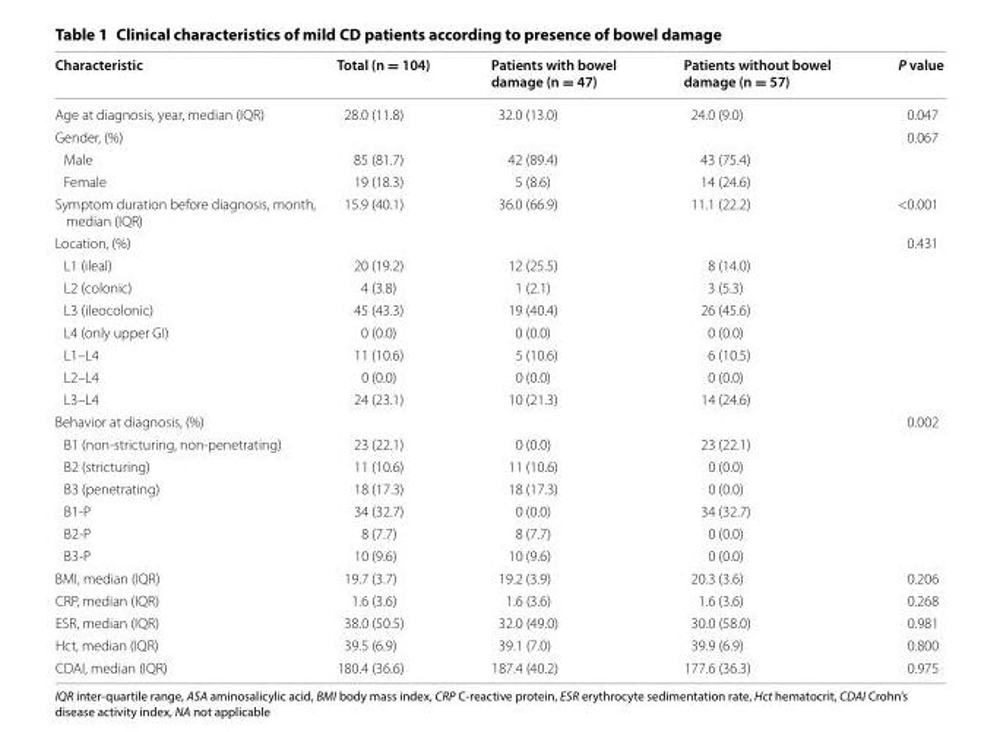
<table><thead><tr><td>Characteristic</td><td>Total (n = 104)</td><td>Patients with bowel damage (n = 47)</td><td>Patients without bowel damage (n = 57)</td><td>P value</td></tr></thead><tbody><tr><td>Age at diagnosis, year, median (IQR)</td><td>28.0 (11.8)</td><td>32.0 (13.0)</td><td>24.0 (9.0)</td><td>0.047</td></tr><tr><td>Gender, (%)</td><td></td><td></td><td></td><td>0.067</td></tr><tr><td>Male</td><td>85 (81.7)</td><td>42 (89.4)</td><td>43 (75.4)</td><td></td></tr><tr><td>Female</td><td>19 (18.3)</td><td>5 (8.6)</td><td>14 (24.6)</td><td></td></tr><tr><td>Symptom duration before diagnosis, month, median (IQR)</td><td>15.9 (40.1)</td><td>36.0 (66.9)</td><td>11.1 (22.2)</td><td>&lt;0.001</td></tr><tr><td>Location, (%)</td><td></td><td></td><td></td><td>0.431</td></tr><tr><td>L1 (ileal)</td><td>20 (19.2)</td><td>12 (25.5)</td><td>8 (14.0)</td><td></td></tr><tr><td>L2 (colonic)</td><td>4 (3.8)</td><td>1 (2.1)</td><td>3 (5.3)</td><td></td></tr><tr><td>L3 (ileocolonic)</td><td>45 (43.3)</td><td>19 (40.4)</td><td>26 (45.6)</td><td></td></tr><tr><td>L4 (only upper GI)</td><td>0 (0.0)</td><td>0 (0.0)</td><td>0 (0.0)</td><td></td></tr><tr><td>L1–L4</td><td>11 (10.6)</td><td>5 (10.6)</td><td>6 (10.5)</td><td></td></tr><tr><td>L2–L4</td><td>0 (0.0)</td><td>0 (0.0)</td><td>0 (0.0)</td><td></td></tr><tr><td>L3–L4</td><td>24 (23.1)</td><td>10 (21.3)</td><td>14 (24.6)</td><td></td></tr><tr><td>Behavior at diagnosis, (%)</td><td></td><td></td><td></td><td>0.002</td></tr><tr><td>B1 (non‑stricturing, non‑penetrating)</td><td>23 (22.1)</td><td>0 (0.0)</td><td>23 (22.1)</td><td></td></tr><tr><td>B2 (stricturing)</td><td>11 (10.6)</td><td>11 (10.6)</td><td>0 (0.0)</td><td></td></tr><tr><td>B3 (penetrating)</td><td>18 (17.3)</td><td>18 (17.3)</td><td>0 (0.0)</td><td></td></tr><tr><td>B1‑P</td><td>34 (32.7)</td><td>0 (0.0)</td><td>34 (32.7)</td><td></td></tr><tr><td>B2‑P</td><td>8 (7.7)</td><td>8 (7.7)</td><td>0 (0.0)</td><td></td></tr><tr><td>B3‑P</td><td>10 (9.6)</td><td>10 (9.6)</td><td>0 (0.0)</td><td></td></tr><tr><td>BMI, median (IQR)</td><td>19.7 (3.7)</td><td>19.2 (3.9)</td><td>20.3 (3.6)</td><td>0.206</td></tr><tr><td>CRP, median (IQR)</td><td>1.6 (3.6)</td><td>1.6 (3.6)</td><td>1.6 (3.6)</td><td>0.268</td></tr><tr><td>ESR, median (IQR)</td><td>38.0 (50.5)</td><td>32.0 (49.0)</td><td>30.0 (58.0)</td><td>0.981</td></tr><tr><td>Hct, median (IQR)</td><td>39.5 (6.9)</td><td>39.1 (7.0)</td><td>39.9 (6.9)</td><td>0.800</td></tr><tr><td>CDAI, median (IQR)</td><td>180.4 (36.6)</td><td>187.4 (40.2)</td><td>177.6 (36.3)</td><td>0.975</td></tr></tbody></table>